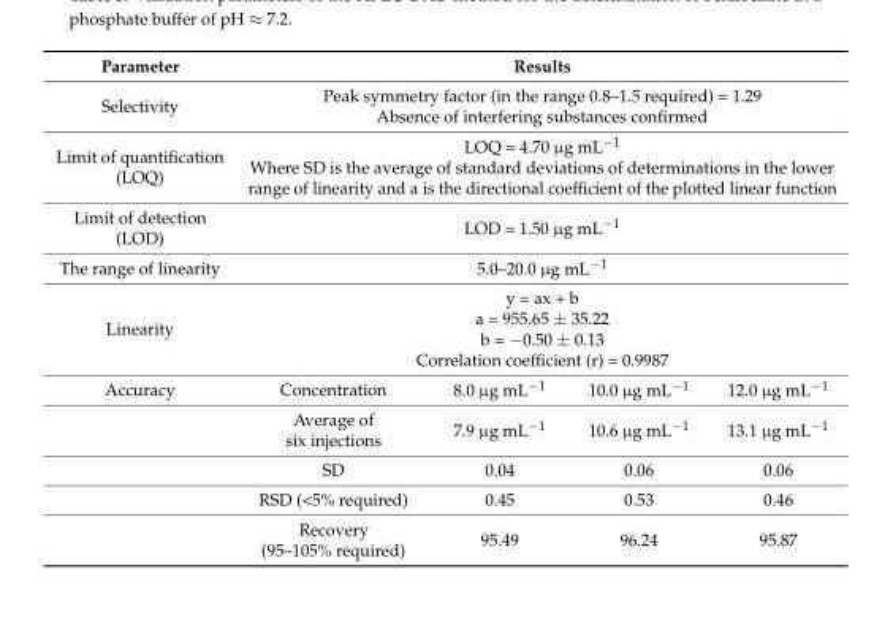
<table><thead><tr><td>Parameter</td><td colspan="4">Results</td></tr></thead><tbody><tr><td>Selectivity</td><td colspan="4">Peak symmetry factor (in the range 0.8–1.5 required) = 1.29 Absence of interfering substances confirmed</td></tr><tr><td>Limit of quantification (LOQ)</td><td colspan="4">LOQ = 4.70 µg mL<sup>−1</sup> Where SD is the average of standard deviations of determinations in the lower range of linearity and a is the directional coefficient of the plotted linear function</td></tr><tr><td>Limit of detection (LOD)</td><td colspan="4">LOD = 1.50 µg mL<sup>−1</sup></td></tr><tr><td>The range of linearity</td><td colspan="4">5.0–20.0 µg mL<sup>−1</sup></td></tr><tr><td>Linearity</td><td colspan="4">y = ax + b a = 955.65 ± 35.22 b = −0.50 ± 0.13 Correlation coefficient (r) = 0.9987</td></tr><tr><td rowspan="5">Accuracy</td><td>Concentration</td><td>8.0 µg mL<sup>−1</sup></td><td>10.0 µg mL<sup>−1</sup></td><td>12.0 µg mL<sup>−1</sup></td></tr><tr><td>Average of six injections</td><td>7.9 µg mL<sup>−1</sup></td><td>10.6 µg mL<sup>−1</sup></td><td>13.1 µg mL<sup>−1</sup></td></tr><tr><td>SD</td><td>0.04</td><td>0.06</td><td>0.06</td></tr><tr><td>RSD (&lt;5% required)</td><td>0.45</td><td>0.53</td><td>0.46</td></tr><tr><td>Recovery (95–105% required)</td><td>95.49</td><td>96.24</td><td>95.87</td></tr></tbody></table>